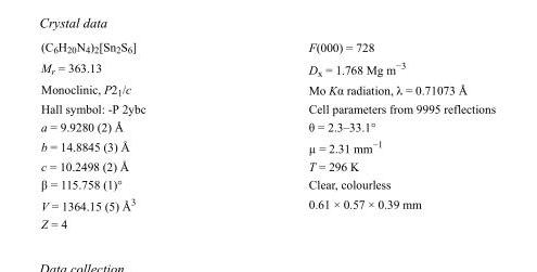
<table><tbody><tr><td>(C<sub>6</sub>H<sub>20</sub>N<sub>4</sub>)<sub>2</sub>[Sn<sub>2</sub>S<sub>6</sub>]</td><td>F(000) = 728</td></tr><tr><td>M<sub>r</sub> = 363.13</td><td>D<sub>x</sub> = 1.768 Mg m<sup>−3</sup></td></tr><tr><td>Monoclinic, P2<sub>1</sub>/c</td><td>Mo Kα radiation, λ = 0.71073 Å</td></tr><tr><td>Hall symbol: -P 2ybc</td><td>Cell parameters from 9995 reflections</td></tr><tr><td>a = 9.9280 (2) Å</td><td>θ = 2.3–33.1°</td></tr><tr><td>b = 14.8845 (3) Å</td><td>µ = 2.31 mm<sup>−1</sup></td></tr><tr><td>c = 10.2498 (2) Å</td><td>T = 296 K</td></tr><tr><td>β = 115.758 (1)°</td><td>Clear, colourless</td></tr><tr><td>V = 1364.15 (5) Å<sup>3</sup></td><td>0.61 × 0.57 × 0.39 mm</td></tr><tr><td>Z = 4</td><td></td></tr></tbody></table>